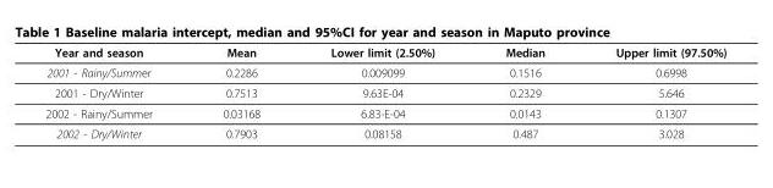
<table><thead><tr><td>Year and season</td><td>Mean</td><td>Lower limit (2.50%)</td><td>Median</td><td>Upper limit (97.50%)</td></tr></thead><tbody><tr><td>2001 - Rainy/Summer</td><td>0.2286</td><td>0.009099</td><td>0.1516</td><td>0.6998</td></tr><tr><td>2001 - Dry/Winter</td><td>0.7513</td><td>9.63E-04</td><td>0.2329</td><td>5.646</td></tr><tr><td>2002 - Rainy/Summer</td><td>0.03168</td><td>6.83-E-04</td><td>0.0143</td><td>0.1307</td></tr><tr><td>2002 - Dry/Winter</td><td>0.7903</td><td>0.08158</td><td>0.487</td><td>3.028</td></tr></tbody></table>